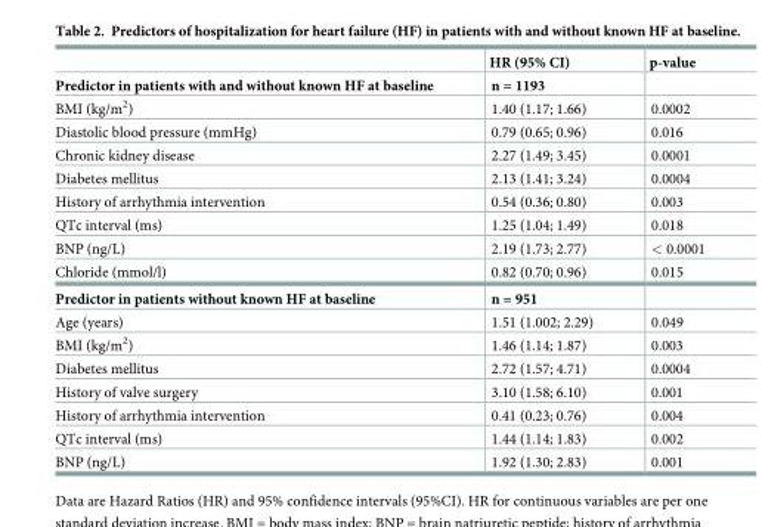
<table><thead><tr><td></td><td>HR (95% CI)</td><td>p-value</td></tr></thead><tbody><tr><td>Predictor in patients with and without known HF at baseline</td><td>n = 1193</td><td></td></tr><tr><td>BMI (kg/m<sup>2</sup>)</td><td>1.40 (1.17; 1.66)</td><td>0.0002</td></tr><tr><td>Diastolic blood pressure (mmHg)</td><td>0.79 (0.65; 0.96)</td><td>0.016</td></tr><tr><td>Chronic kidney disease</td><td>2.27 (1.49; 3.45)</td><td>0.0001</td></tr><tr><td>Diabetes mellitus</td><td>2.13 (1.41; 3.24)</td><td>0.0004</td></tr><tr><td>History of arrhythmia intervention</td><td>0.54 (0.36; 0.80)</td><td>0.003</td></tr><tr><td>QTc interval (ms)</td><td>1.25 (1.04; 1.49)</td><td>0.018</td></tr><tr><td>BNP (ng/L)</td><td>2.19 (1.73; 2.77)</td><td>&lt; 0.0001</td></tr><tr><td>Chloride (mmol/l)</td><td>0.82 (0.70; 0.96)</td><td>0.015</td></tr><tr><td>Predictor in patients without known HF at baseline</td><td>n = 951</td><td></td></tr><tr><td>Age (years)</td><td>1.51 (1.002; 2.29)</td><td>0.049</td></tr><tr><td>BMI (kg/m<sup>2</sup>)</td><td>1.46 (1.14; 1.87)</td><td>0.003</td></tr><tr><td>Diabetes mellitus</td><td>2.72 (1.57; 4.71)</td><td>0.0004</td></tr><tr><td>History of valve surgery</td><td>3.10 (1.58; 6.10)</td><td>0.001</td></tr><tr><td>History of arrhythmia intervention</td><td>0.41 (0.23; 0.76)</td><td>0.004</td></tr><tr><td>QTc interval (ms)</td><td>1.44 (1.14; 1.83)</td><td>0.002</td></tr><tr><td>BNP (ng/L)</td><td>1.92 (1.30; 2.83)</td><td>0.001</td></tr></tbody></table>